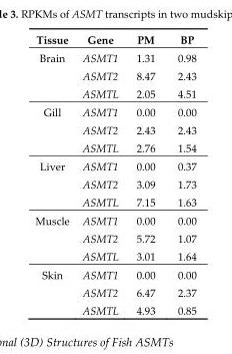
<table><thead><tr><td>Tissue</td><td>Gene</td><td>PM</td><td>BP</td></tr></thead><tbody><tr><td rowspan="3">Brain</td><td>ASMT1</td><td>1.31</td><td>0.98</td></tr><tr><td>ASMT2</td><td>8.47</td><td>2.43</td></tr><tr><td>ASMTL</td><td>2.05</td><td>4.51</td></tr><tr><td rowspan="3">Gill</td><td>ASMT1</td><td>0.00</td><td>0.00</td></tr><tr><td>ASMT2</td><td>2.43</td><td>2.43</td></tr><tr><td>ASMTL</td><td>2.76</td><td>1.54</td></tr><tr><td rowspan="3">Liver</td><td>ASMT1</td><td>0.00</td><td>0.37</td></tr><tr><td>ASMT2</td><td>3.09</td><td>1.73</td></tr><tr><td>ASMTL</td><td>7.15</td><td>1.63</td></tr><tr><td rowspan="3">Muscle</td><td>ASMT1</td><td>0.00</td><td>0.00</td></tr><tr><td>ASMT2</td><td>5.72</td><td>1.07</td></tr><tr><td>ASMTL</td><td>3.01</td><td>1.64</td></tr><tr><td rowspan="3">Skin</td><td>ASMT1</td><td>0.00</td><td>0.00</td></tr><tr><td>ASMT2</td><td>6.47</td><td>2.37</td></tr><tr><td>ASMTL</td><td>4.93</td><td>0.85</td></tr></tbody></table>